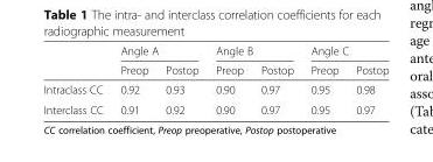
<table><thead><tr><td rowspan="2"></td><td colspan="2">Angle A</td><td colspan="2">Angle B</td><td colspan="2">Angle C</td></tr><tr><td>Preop</td><td>Postop</td><td>Preop</td><td>Postop</td><td>Preop</td><td>Postop</td></tr></thead><tbody><tr><td>Intraclass CC</td><td>0.92</td><td>0.93</td><td>0.90</td><td>0.97</td><td>0.95</td><td>0.98</td></tr><tr><td>Interclass CC</td><td>0.91</td><td>0.92</td><td>0.90</td><td>0.97</td><td>0.95</td><td>0.97</td></tr></tbody></table>